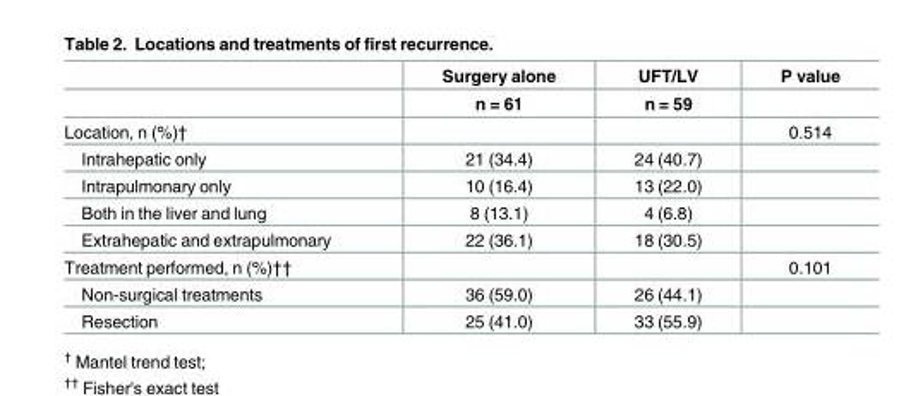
<table><thead><tr><td rowspan="2"></td><td rowspan="2">Surgery alone n = 61</td><td rowspan="2">UFT/LV n = 59</td><td rowspan="2">P value</td></tr><tr></tr></thead><tbody><tr><td>Location, n (%)†</td><td></td><td></td><td>0.514</td></tr><tr><td>Intrahepatic only</td><td>21 (34.4)</td><td>24 (40.7)</td><td></td></tr><tr><td>Intrapulmonary only</td><td>10 (16.4)</td><td>13 (22.0)</td><td></td></tr><tr><td>Both in the liver and lung</td><td>8 (13.1)</td><td>4 (6.8)</td><td></td></tr><tr><td>Extrahepatic and extrapulmonary</td><td>22 (36.1)</td><td>18 (30.5)</td><td></td></tr><tr><td>Treatment performed, n (%)††</td><td></td><td></td><td>0.101</td></tr><tr><td>Non-surgical treatments</td><td>36 (59.0)</td><td>26 (44.1)</td><td></td></tr><tr><td>Resection</td><td>25 (41.0)</td><td>33 (55.9)</td><td></td></tr></tbody></table>